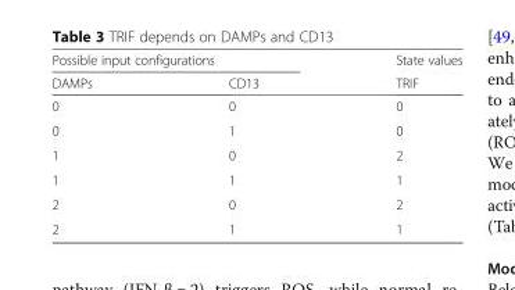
<table><thead><tr><td colspan="2">Possible input configurations</td><td rowspan="2">State values TRIF</td></tr><tr><td>DAMPs</td><td>CD13</td></tr></thead><tbody><tr><td>0</td><td>0</td><td>0</td></tr><tr><td>0</td><td>1</td><td>0</td></tr><tr><td>1</td><td>0</td><td>2</td></tr><tr><td>1</td><td>1</td><td>1</td></tr><tr><td>2</td><td>0</td><td>2</td></tr><tr><td>2</td><td>1</td><td>1</td></tr></tbody></table>